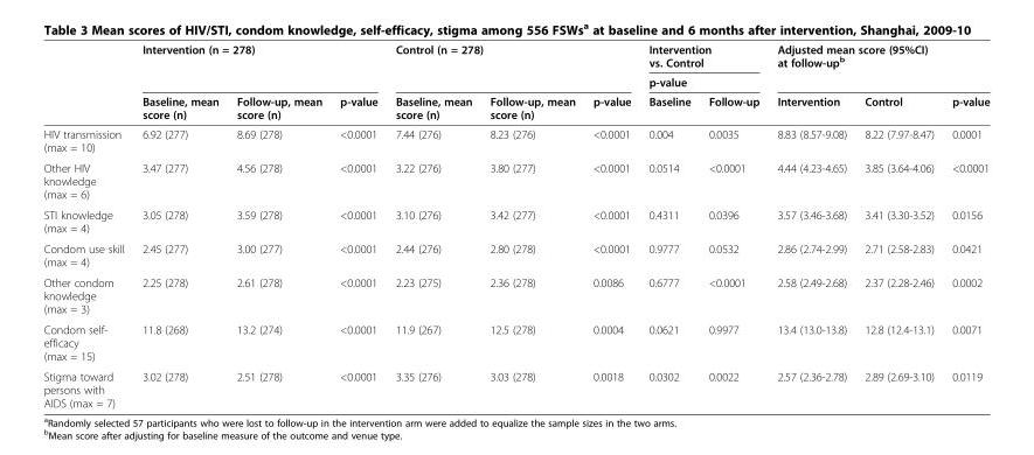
<table><thead><tr><td rowspan="3"></td><td rowspan="2" colspan="3">Intervention (n = 278)</td><td rowspan="2" colspan="3">Control (n = 278)</td><td rowspan="2" colspan="2">Intervention vs. Control p-value</td><td rowspan="2" colspan="3">Adjusted mean score (95%CI) at follow-up<sup>b</sup></td></tr><tr></tr><tr><td>Baseline, mean score (n)</td><td>Follow-up, mean score (n)</td><td>p-value</td><td>Baseline, mean score (n)</td><td>Follow-up, mean score (n)</td><td>p-value</td><td>Baseline</td><td>Follow-up</td><td>Intervention</td><td>Control</td><td>p-value</td></tr></thead><tbody><tr><td>HIV transmission (max = 10)</td><td>6.92 (277)</td><td>8.69 (278)</td><td>&lt;0.0001</td><td>7.44 (276)</td><td>8.23 (276)</td><td>&lt;0.0001</td><td>0.004</td><td>0.0035</td><td>8.83 (8.57-9.08)</td><td>8.22 (7.97-8.47)</td><td>0.0001</td></tr><tr><td>Other HIV knowledge (max = 6)</td><td>3.47 (277)</td><td>4.56 (278)</td><td>&lt;0.0001</td><td>3.22 (276)</td><td>3.80 (277)</td><td>&lt;0.0001</td><td>0.0514</td><td>&lt;0.0001</td><td>4.44 (4.23-4.65)</td><td>3.85 (3.64-4.06)</td><td>&lt;0.0001</td></tr><tr><td>STI knowledge (max = 4)</td><td>3.05 (278)</td><td>3.59 (278)</td><td>&lt;0.0001</td><td>3.10 (276)</td><td>3.42 (277)</td><td>&lt;0.0001</td><td>0.4311</td><td>0.0396</td><td>3.57 (3.46-3.68)</td><td>3.41 (3.30-3.52)</td><td>0.0156</td></tr><tr><td>Condom use skill (max = 4)</td><td>2.45 (277)</td><td>3.00 (277)</td><td>&lt;0.0001</td><td>2.44 (276)</td><td>2.80 (278)</td><td>&lt;0.0001</td><td>0.9777</td><td>0.0532</td><td>2.86 (2.74-2.99)</td><td>2.71 (2.58-2.83)</td><td>0.0421</td></tr><tr><td>Other condom knowledge (max = 3)</td><td>2.25 (278)</td><td>2.61 (278)</td><td>&lt;0.0001</td><td>2.23 (275)</td><td>2.36 (278)</td><td>0.0086</td><td>0.6777</td><td>&lt;0.0001</td><td>2.58 (2.49-2.68)</td><td>2.37 (2.28-2.46)</td><td>0.0002</td></tr><tr><td>Condom self- efficacy (max = 15)</td><td>11.8 (268)</td><td>13.2 (274)</td><td>&lt;0.0001</td><td>11.9 (267)</td><td>12.5 (278)</td><td>0.0004</td><td>0.0621</td><td>0.9977</td><td>13.4 (13.0-13.8)</td><td>12.8 (12.4-13.1)</td><td>0.0071</td></tr><tr><td>Stigma toward persons with AIDS (max = 7)</td><td>3.02 (278)</td><td>2.51 (278)</td><td>&lt;0.0001</td><td>3.35 (276)</td><td>3.03 (278)</td><td>0.0018</td><td>0.0302</td><td>0.0022</td><td>2.57 (2.36-2.78)</td><td>2.89 (2.69-3.10)</td><td>0.0119</td></tr></tbody></table>